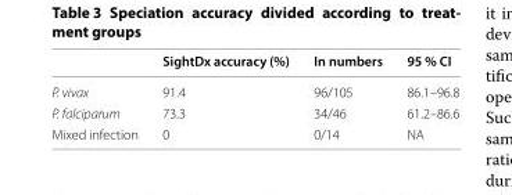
<table><thead><tr><td></td><td>SightDx accuracy (%)</td><td>In numbers</td><td>95 % CI</td></tr></thead><tbody><tr><td>P. vivax</td><td>91.4</td><td>96/105</td><td>86.1–96.8</td></tr><tr><td>P. falciparum</td><td>73.3</td><td>34/46</td><td>61.2–86.6</td></tr><tr><td>Mixed infection</td><td>0</td><td>0/14</td><td>NA</td></tr></tbody></table>